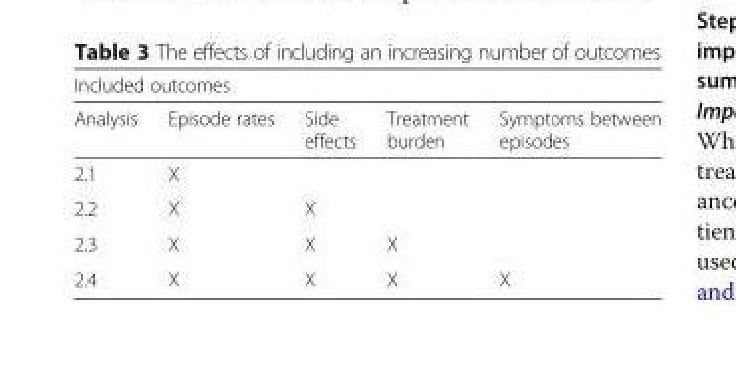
<table><thead><tr><td colspan="5">Included outcomes</td></tr><tr><td>Analysis</td><td>Episode rates</td><td>Side effects</td><td>Treatment burden</td><td>Symptoms between episodes</td></tr></thead><tbody><tr><td>2.1</td><td>X</td><td></td><td></td><td></td></tr><tr><td>2.2</td><td>X</td><td>X</td><td></td><td></td></tr><tr><td>2.3</td><td>X</td><td>X</td><td>X</td><td></td></tr><tr><td>2.4</td><td>X</td><td>X</td><td>X</td><td>X</td></tr></tbody></table>